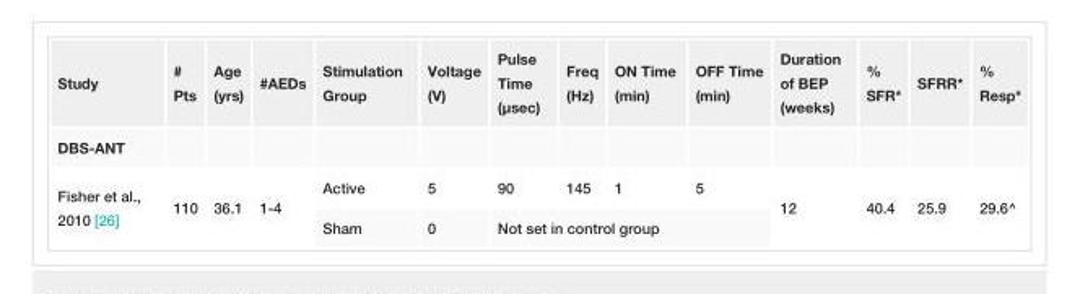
<table><tbody><tr><td>Study</td><td># Pts</td><td>Age (yrs)</td><td>#AEDs</td><td>Stimulation Group</td><td>Voltage (V)</td><td>Pulse Time (μsec)</td><td>Freq (Hz)</td><td>ON Time (min)</td><td>OFF Time (min)</td><td>Duration of BEP (weeks)</td><td>% SFR*</td><td>SFRR*</td><td>% Resp*</td></tr><tr><td colspan="14">DBS-ANT</td></tr><tr><td rowspan="2">Fisher et al., 2010 [26]</td><td rowspan="2">110</td><td rowspan="2">36.1</td><td rowspan="2">1-4</td><td>Active</td><td>5</td><td>90</td><td>145</td><td>1</td><td>5</td><td rowspan="2">12</td><td rowspan="2">40.4</td><td rowspan="2">25.9</td><td rowspan="2">29.6^</td></tr><tr><td>Sham</td><td>0</td><td colspan="4">Not set in control group</td></tr></tbody></table>